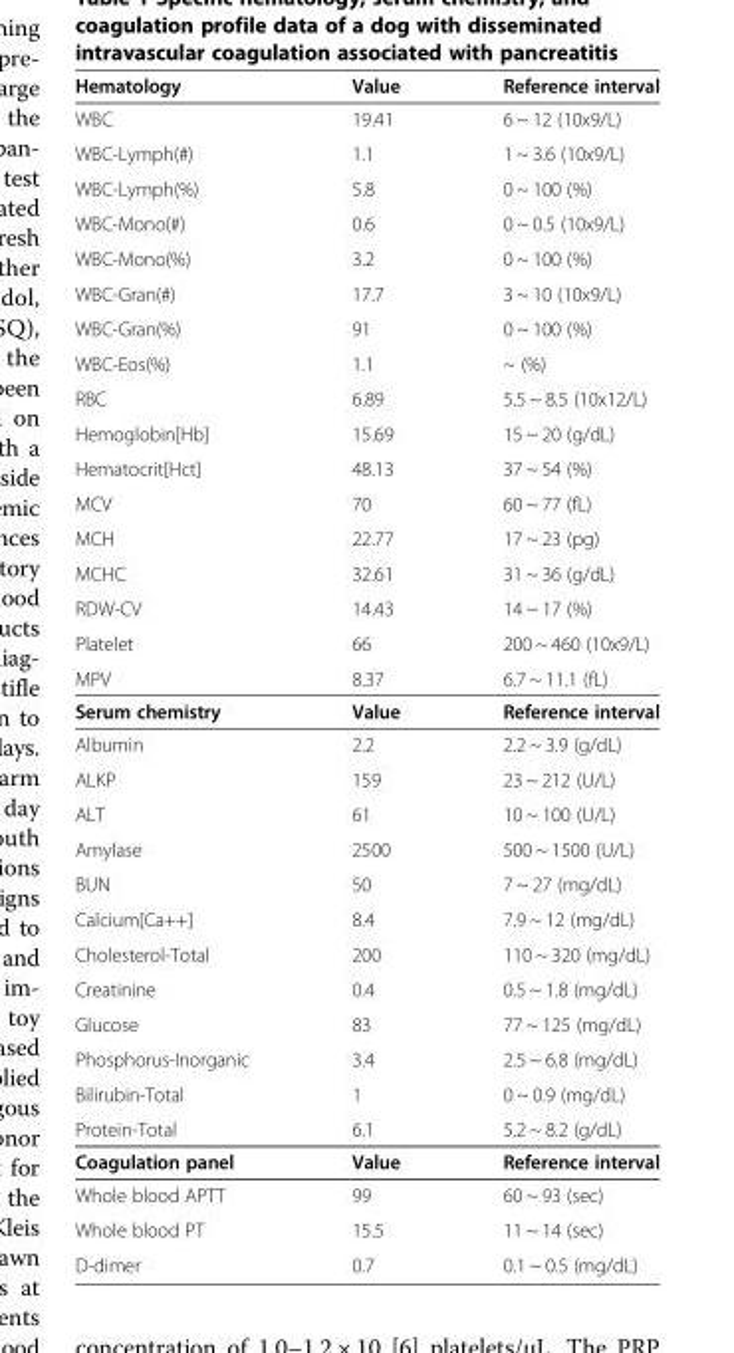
<table><thead><tr><td>Hematology</td><td>Value</td><td>Reference interval</td></tr></thead><tbody><tr><td>WBC</td><td>19.41</td><td>6 ~ 12 (10x9/L)</td></tr><tr><td>WBC-Lymph(#)</td><td>1.1</td><td>1 ~ 3.6 (10x9/L)</td></tr><tr><td>WBC-Lymph(%)</td><td>5.8</td><td>0 ~ 100 (%)</td></tr><tr><td>WBC-Mono(#)</td><td>0.6</td><td>0 ~ 0.5 (10x9/L)</td></tr><tr><td>WBC-Mono(%)</td><td>3.2</td><td>0 ~ 100 (%)</td></tr><tr><td>WBC-Gran(#)</td><td>17.7</td><td>3 ~ 10 (10x9/L)</td></tr><tr><td>WBC-Gran(%)</td><td>91</td><td>0 ~ 100 (%)</td></tr><tr><td>WBC-Eos(%)</td><td>1.1</td><td>~ (%)</td></tr><tr><td>RBC</td><td>6.89</td><td>5.5 ~ 8.5 (10x12/L)</td></tr><tr><td>Hemoglobin[Hb]</td><td>15.69</td><td>15 ~ 20 (g/dL)</td></tr><tr><td>Hematocrit[Hct]</td><td>48.13</td><td>37 ~ 54 (%)</td></tr><tr><td>MCV</td><td>70</td><td>60 ~ 77 (fL)</td></tr><tr><td>MCH</td><td>22.77</td><td>17 ~ 23 (pg)</td></tr><tr><td>MCHC</td><td>32.61</td><td>31 ~ 36 (g/dL)</td></tr><tr><td>RDW-CV</td><td>14.43</td><td>14 ~ 17 (%)</td></tr><tr><td>Platelet</td><td>66</td><td>200 ~ 460 (10x9/L)</td></tr><tr><td>MPV</td><td>8.37</td><td>6.7 ~ 11.1 (fL)</td></tr><tr><td>Serum chemistry</td><td>Value</td><td>Reference interval</td></tr><tr><td>Albumin</td><td>2.2</td><td>2.2 ~ 3.9 (g/dL)</td></tr><tr><td>ALKP</td><td>159</td><td>23 ~ 212 (U/L)</td></tr><tr><td>ALT</td><td>61</td><td>10 ~ 100 (U/L)</td></tr><tr><td>Amylase</td><td>2500</td><td>500 ~ 1500 (U/L)</td></tr><tr><td>BUN</td><td>50</td><td>7 ~ 27 (mg/dL)</td></tr><tr><td>Calcium[Ca++]</td><td>8.4</td><td>7.9 ~ 12 (mg/dL)</td></tr><tr><td>Cholesterol-Total</td><td>200</td><td>110 ~ 320 (mg/dL)</td></tr><tr><td>Creatinine</td><td>0.4</td><td>0.5 ~ 1.8 (mg/dL)</td></tr><tr><td>Glucose</td><td>83</td><td>77 ~ 125 (mg/dL)</td></tr><tr><td>Phosphorus-Inorganic</td><td>3.4</td><td>2.5 ~ 6.8 (mg/dL)</td></tr><tr><td>Bilirubin-Total</td><td>1</td><td>0 ~ 0.9 (mg/dL)</td></tr><tr><td>Protein-Total</td><td>6.1</td><td>5.2 ~ 8.2 (g/dL)</td></tr><tr><td>Coagulation panel</td><td>Value</td><td>Reference interval</td></tr><tr><td>Whole blood APTT</td><td>99</td><td>60 ~ 93 (sec)</td></tr><tr><td>Whole blood PT</td><td>15.5</td><td>11 ~ 14 (sec)</td></tr><tr><td>D-dimer</td><td>0.7</td><td>0.1 ~ 0.5 (mg/dL)</td></tr></tbody></table>